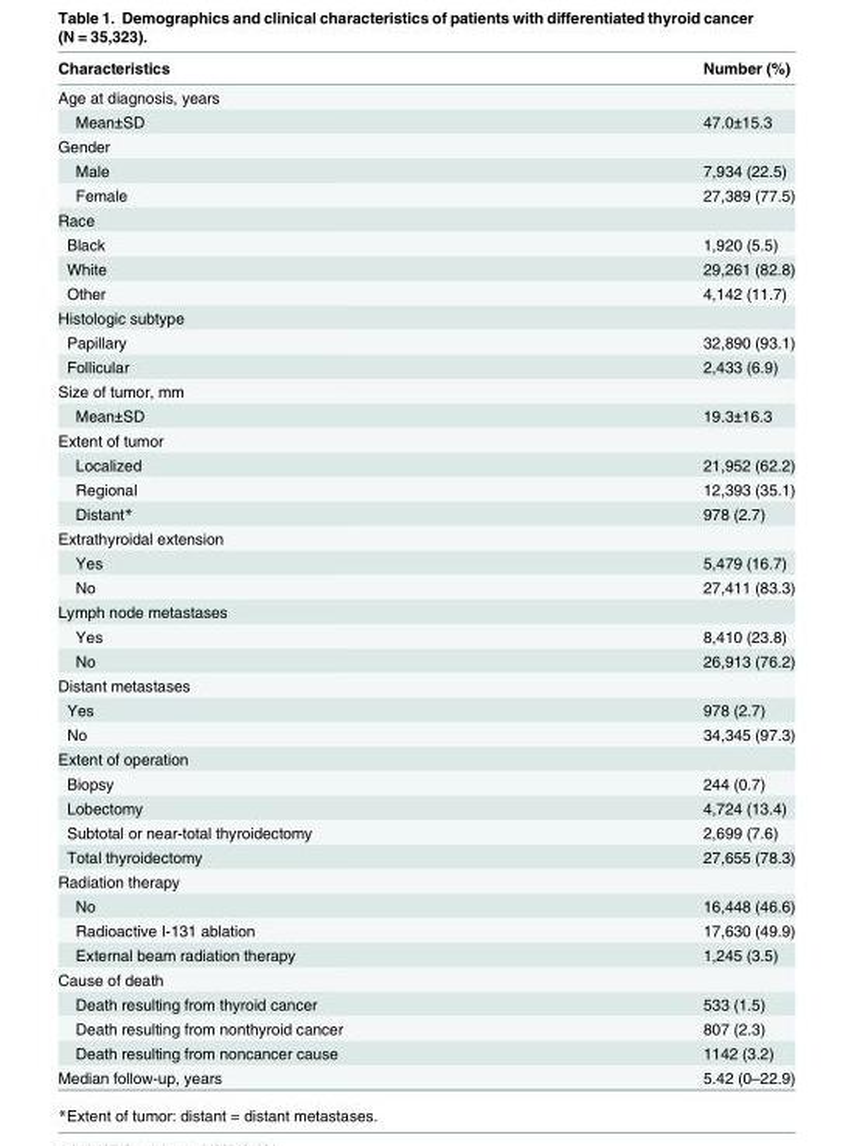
<table><thead><tr><td>Characteristics</td><td>Number (%)</td></tr></thead><tbody><tr><td colspan="2">Age at diagnosis, years</td></tr><tr><td>Mean±SD</td><td>47.0±15.3</td></tr><tr><td colspan="2">Gender</td></tr><tr><td>Male</td><td>7,934 (22.5)</td></tr><tr><td>Female</td><td>27,389 (77.5)</td></tr><tr><td colspan="2">Race</td></tr><tr><td>Black</td><td>1,920 (5.5)</td></tr><tr><td>White</td><td>29,261 (82.8)</td></tr><tr><td>Other</td><td>4,142 (11.7)</td></tr><tr><td colspan="2">Histologic subtype</td></tr><tr><td>Papillary</td><td>32,890 (93.1)</td></tr><tr><td>Follicular</td><td>2,433 (6.9)</td></tr><tr><td colspan="2">Size of tumor, mm</td></tr><tr><td>Mean±SD</td><td>19.3±16.3</td></tr><tr><td colspan="2">Extent of tumor</td></tr><tr><td>Localized</td><td>21,952 (62.2)</td></tr><tr><td>Regional</td><td>12,393 (35.1)</td></tr><tr><td>Distant*</td><td>978 (2.7)</td></tr><tr><td colspan="2">Extrathyroidal extension</td></tr><tr><td>Yes</td><td>5,479 (16.7)</td></tr><tr><td>No</td><td>27,411 (83.3)</td></tr><tr><td colspan="2">Lymph node metastases</td></tr><tr><td>Yes</td><td>8,410 (23.8)</td></tr><tr><td>No</td><td>26,913 (76.2)</td></tr><tr><td colspan="2">Distant metastases</td></tr><tr><td>Yes</td><td>978 (2.7)</td></tr><tr><td>No</td><td>34,345 (97.3)</td></tr><tr><td colspan="2">Extent of operation</td></tr><tr><td>Biopsy</td><td>244 (0.7)</td></tr><tr><td>Lobectomy</td><td>4,724 (13.4)</td></tr><tr><td>Subtotal or near-total thyroidectomy</td><td>2,699 (7.6)</td></tr><tr><td>Total thyroidectomy</td><td>27,655 (78.3)</td></tr><tr><td colspan="2">Radiation therapy</td></tr><tr><td>No</td><td>16,448 (46.6)</td></tr><tr><td>Radioactive I-131 ablation</td><td>17,630 (49.9)</td></tr><tr><td>External beam radiation therapy</td><td>1,245 (3.5)</td></tr><tr><td colspan="2">Cause of death</td></tr><tr><td>Death resulting from thyroid cancer</td><td>533 (1.5)</td></tr><tr><td>Death resulting from nonthyroid cancer</td><td>807 (2.3)</td></tr><tr><td>Death resulting from noncancer cause</td><td>1142 (3.2)</td></tr><tr><td>Median follow-up, years</td><td>5.42 (0–22.9)</td></tr></tbody></table>